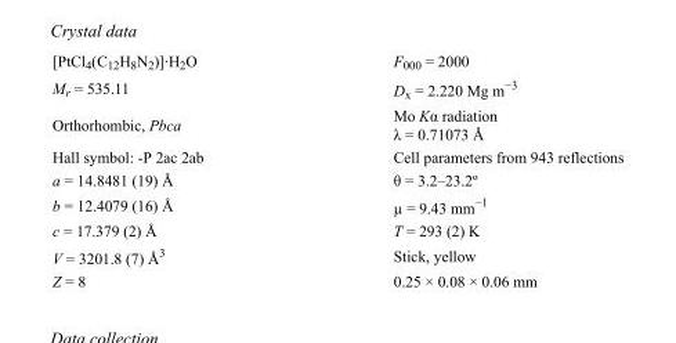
<table><tbody><tr><td>[PtCl<sub>4</sub>(C<sub>12</sub>H<sub>8</sub>N<sub>2</sub>)]·H<sub>2</sub>O</td><td>F000 = 2000</td></tr><tr><td>M<sub>r</sub> = 535.11</td><td>D<sub>x</sub> = 2.220 Mg m<sup>−3</sup></td></tr><tr><td>Orthorhombic, Pbca</td><td>Mo Kα radiation λ = 0.71073 Å</td></tr><tr><td>Hall symbol: -P 2ac 2ab</td><td>Cell parameters from 943 reflections</td></tr><tr><td>a = 14.8481 (19) Å</td><td>θ = 3.2–23.2º</td></tr><tr><td>b = 12.4079 (16) Å</td><td>µ = 9.43 mm<sup>−1</sup></td></tr><tr><td>c = 17.379 (2) Å</td><td>T = 293 (2) K</td></tr><tr><td>V = 3201.8 (7) Å<sup>3</sup></td><td>Stick, yellow</td></tr><tr><td>Z = 8</td><td>0.25 × 0.08 × 0.06 mm</td></tr></tbody></table>